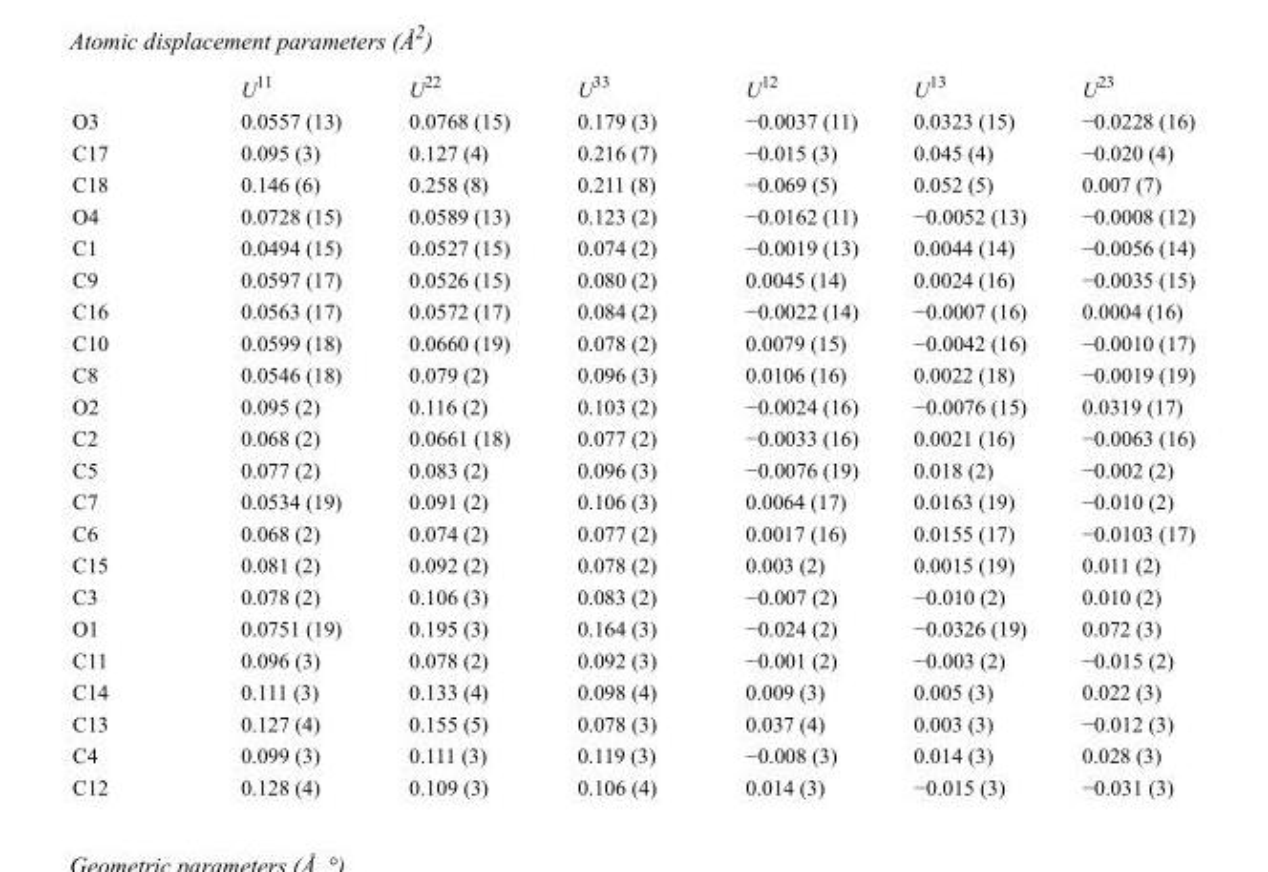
<table><thead><tr><td></td><td>U<sup>11</sup></td><td>U<sup>22</sup></td><td>U<sup>33</sup></td><td>U<sup>12</sup></td><td>U<sup>13</sup></td><td>U<sup>23</sup></td></tr></thead><tbody><tr><td>O3</td><td>0.0557 (13)</td><td>0.0768 (15)</td><td>0.179 (3)</td><td>−0.0037 (11)</td><td>0.0323 (15)</td><td>−0.0228 (16)</td></tr><tr><td>C17</td><td>0.095 (3)</td><td>0.127 (4)</td><td>0.216 (7)</td><td>−0.015 (3)</td><td>0.045 (4)</td><td>−0.020 (4)</td></tr><tr><td>C18</td><td>0.146 (6)</td><td>0.258 (8)</td><td>0.211 (8)</td><td>−0.069 (5)</td><td>0.052 (5)</td><td>0.007 (7)</td></tr><tr><td>O4</td><td>0.0728 (15)</td><td>0.0589 (13)</td><td>0.123 (2)</td><td>−0.0162 (11)</td><td>−0.0052 (13)</td><td>−0.0008 (12)</td></tr><tr><td>C1</td><td>0.0494 (15)</td><td>0.0527 (15)</td><td>0.074 (2)</td><td>−0.0019 (13)</td><td>0.0044 (14)</td><td>−0.0056 (14)</td></tr><tr><td>C9</td><td>0.0597 (17)</td><td>0.0526 (15)</td><td>0.080 (2)</td><td>0.0045 (14)</td><td>0.0024 (16)</td><td>−0.0035 (15)</td></tr><tr><td>C16</td><td>0.0563 (17)</td><td>0.0572 (17)</td><td>0.084 (2)</td><td>−0.0022 (14)</td><td>−0.0007 (16)</td><td>0.0004 (16)</td></tr><tr><td>C10</td><td>0.0599 (18)</td><td>0.0660 (19)</td><td>0.078 (2)</td><td>0.0079 (15)</td><td>−0.0042 (16)</td><td>−0.0010 (17)</td></tr><tr><td>C8</td><td>0.0546 (18)</td><td>0.079 (2)</td><td>0.096 (3)</td><td>0.0106 (16)</td><td>0.0022 (18)</td><td>−0.0019 (19)</td></tr><tr><td>O2</td><td>0.095 (2)</td><td>0.116 (2)</td><td>0.103 (2)</td><td>−0.0024 (16)</td><td>−0.0076 (15)</td><td>0.0319 (17)</td></tr><tr><td>C2</td><td>0.068 (2)</td><td>0.0661 (18)</td><td>0.077 (2)</td><td>−0.0033 (16)</td><td>0.0021 (16)</td><td>−0.0063 (16)</td></tr><tr><td>C5</td><td>0.077 (2)</td><td>0.083 (2)</td><td>0.096 (3)</td><td>−0.0076 (19)</td><td>0.018 (2)</td><td>−0.002 (2)</td></tr><tr><td>C7</td><td>0.0534 (19)</td><td>0.091 (2)</td><td>0.106 (3)</td><td>0.0064 (17)</td><td>0.0163 (19)</td><td>−0.010 (2)</td></tr><tr><td>C6</td><td>0.068 (2)</td><td>0.074 (2)</td><td>0.077 (2)</td><td>0.0017 (16)</td><td>0.0155 (17)</td><td>−0.0103 (17)</td></tr><tr><td>C15</td><td>0.081 (2)</td><td>0.092 (2)</td><td>0.078 (2)</td><td>0.003 (2)</td><td>0.0015 (19)</td><td>0.011 (2)</td></tr><tr><td>C3</td><td>0.078 (2)</td><td>0.106 (3)</td><td>0.083 (2)</td><td>−0.007 (2)</td><td>−0.010 (2)</td><td>0.010 (2)</td></tr><tr><td>O1</td><td>0.0751 (19)</td><td>0.195 (3)</td><td>0.164 (3)</td><td>−0.024 (2)</td><td>−0.0326 (19)</td><td>0.072 (3)</td></tr><tr><td>C11</td><td>0.096 (3)</td><td>0.078 (2)</td><td>0.092 (3)</td><td>−0.001 (2)</td><td>−0.003 (2)</td><td>−0.015 (2)</td></tr><tr><td>C14</td><td>0.111 (3)</td><td>0.133 (4)</td><td>0.098 (4)</td><td>0.009 (3)</td><td>0.005 (3)</td><td>0.022 (3)</td></tr><tr><td>C13</td><td>0.127 (4)</td><td>0.155 (5)</td><td>0.078 (3)</td><td>0.037 (4)</td><td>0.003 (3)</td><td>−0.012 (3)</td></tr><tr><td>C4</td><td>0.099 (3)</td><td>0.111 (3)</td><td>0.119 (3)</td><td>−0.008 (3)</td><td>0.014 (3)</td><td>0.028 (3)</td></tr><tr><td>C12</td><td>0.128 (4)</td><td>0.109 (3)</td><td>0.106 (4)</td><td>0.014 (3)</td><td>−0.015 (3)</td><td>−0.031 (3)</td></tr></tbody></table>